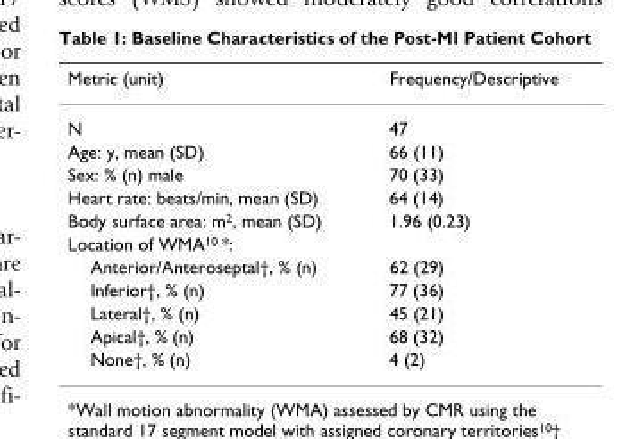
<table><thead><tr><td>Metric (unit)</td><td>Frequency/Descriptive</td></tr></thead><tbody><tr><td>N</td><td>47</td></tr><tr><td>Age: y, mean (SD)</td><td>66 (11)</td></tr><tr><td>Sex: % (n) male</td><td>70 (33)</td></tr><tr><td>Heart rate: beats/min, mean (SD)</td><td>64 (14)</td></tr><tr><td>Body surface area: m<sup>2</sup>, mean (SD)</td><td>1.96 (0.23)</td></tr><tr><td colspan="2">Location of WMA<sup>10</sup> *:</td></tr><tr><td>Anterior/Anteroseptal†, % (n)</td><td>62 (29)</td></tr><tr><td>Inferior†, % (n)</td><td>77 (36)</td></tr><tr><td>Lateral†, % (n)</td><td>45 (21)</td></tr><tr><td>Apical†, % (n)</td><td>68 (32)</td></tr><tr><td>None†, % (n)</td><td>4 (2)</td></tr></tbody></table>